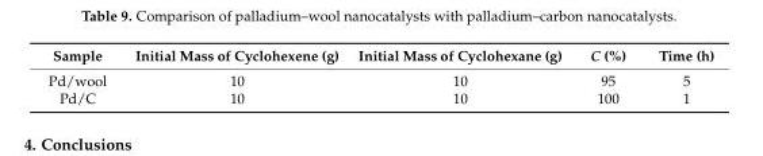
<table><thead><tr><td>Sample</td><td>Initial Mass of Cyclohexene (g)</td><td>Initial Mass of Cyclohexane (g)</td><td>C (%)</td><td>Time (h)</td></tr></thead><tbody><tr><td>Pd/wool</td><td>10</td><td>10</td><td>95</td><td>5</td></tr><tr><td>Pd/C</td><td>10</td><td>10</td><td>100</td><td>1</td></tr></tbody></table>